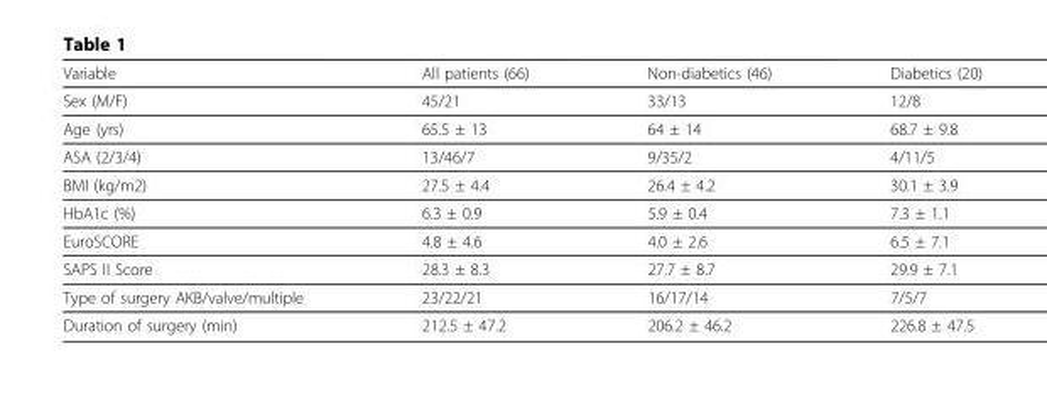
<table><thead><tr><td>Variable</td><td>All patients (66)</td><td>Non-diabetics (46)</td><td>Diabetics (20)</td></tr></thead><tbody><tr><td>Sex (M/F)</td><td>45/21</td><td>33/13</td><td>12/8</td></tr><tr><td>Age (yrs)</td><td>65.5 ± 13</td><td>64 ± 14</td><td>68.7 ± 9.8</td></tr><tr><td>ASA (2/3/4)</td><td>13/46/7</td><td>9/35/2</td><td>4/11/5</td></tr><tr><td>BMI (kg/m2)</td><td>27.5 ± 4.4</td><td>26.4 ± 4.2</td><td>30.1 ± 3.9</td></tr><tr><td>HbA1c (%)</td><td>6.3 ± 0.9</td><td>5.9 ± 0.4</td><td>7.3 ± 1.1</td></tr><tr><td>EuroSCORE</td><td>4.8 ± 4.6</td><td>4.0 ± 2.6</td><td>6.5 ± 7.1</td></tr><tr><td>SAPS II Score</td><td>28.3 ± 8.3</td><td>27.7 ± 8.7</td><td>29.9 ± 7.1</td></tr><tr><td>Type of surgery AKB/valve/multiple</td><td>23/22/21</td><td>16/17/14</td><td>7/5/7</td></tr><tr><td>Duration of surgery (min)</td><td>212.5 ± 47.2</td><td>206.2 ± 46.2</td><td>226.8 ± 47.5</td></tr></tbody></table>